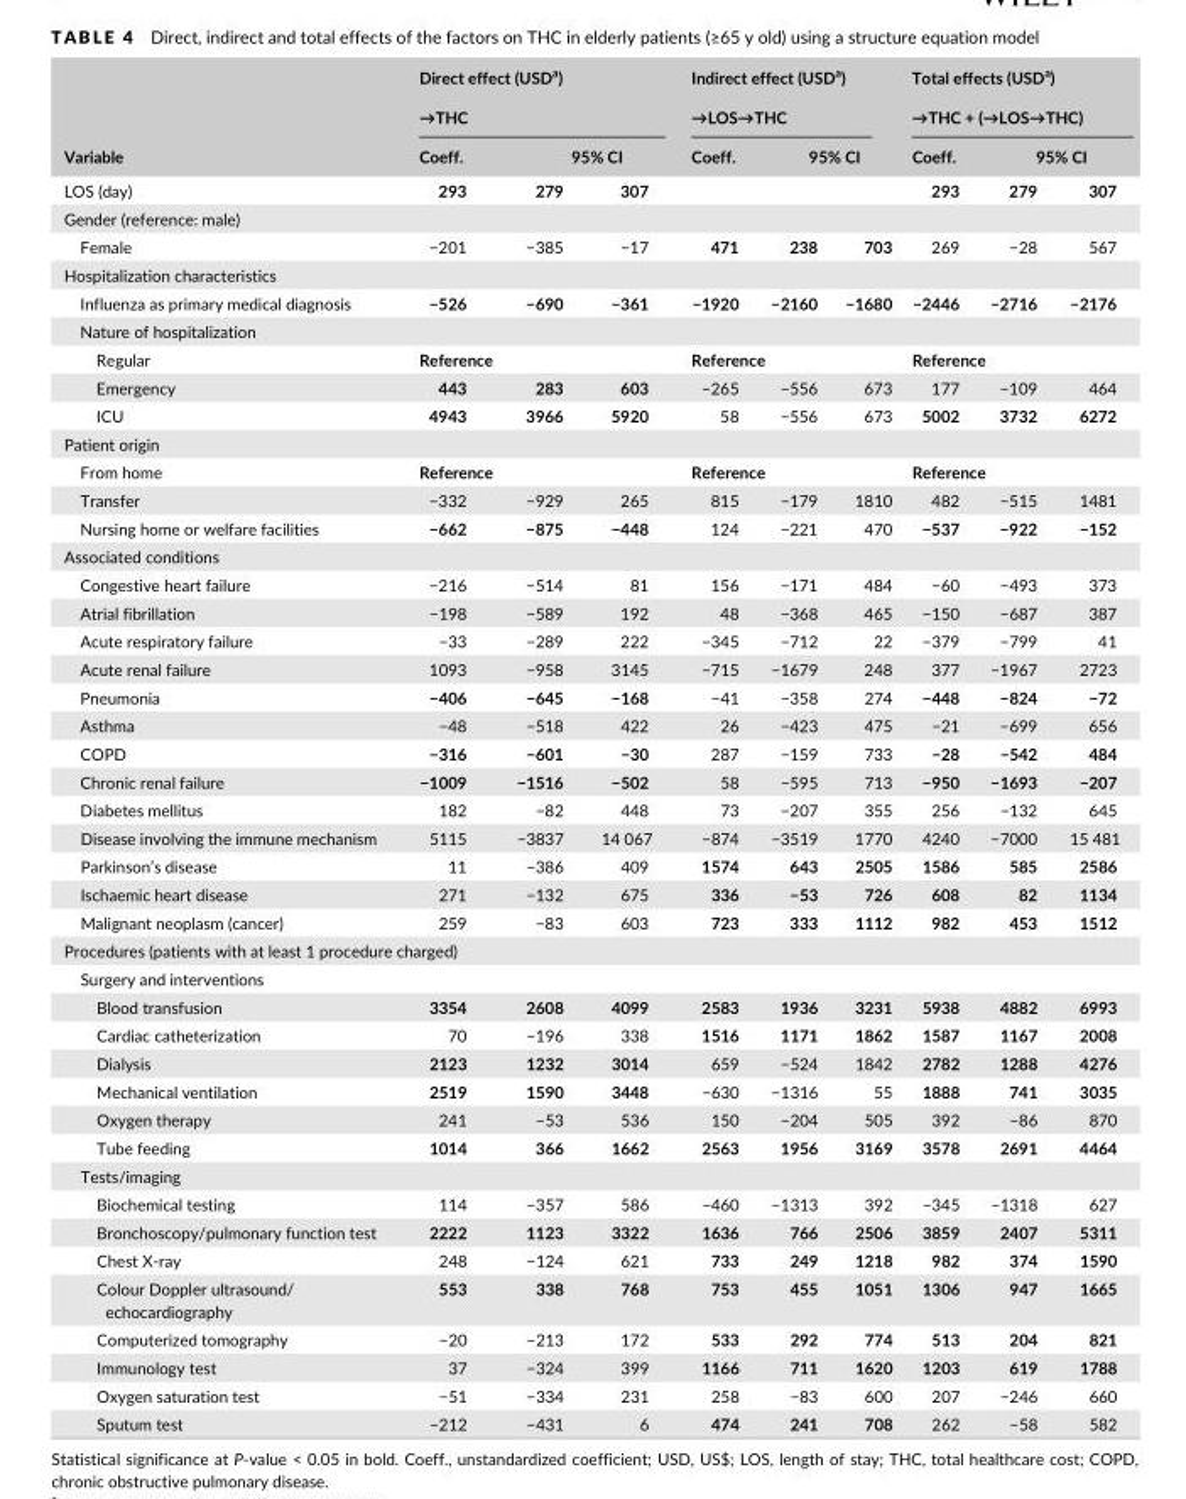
<table><thead><tr><td rowspan="4">Variable LOS (day)</td><td rowspan="2" colspan="3">Direct effect (USD<sup>a</sup>) →THC</td><td rowspan="2" colspan="3">Indirect effect (USD<sup>a</sup>) →LOS→THC</td><td rowspan="2" colspan="3">Total effects (USD<sup>a</sup>) →THC + (→LOS→THC)</td></tr><tr></tr><tr><td rowspan="2">Coeff. 293</td><td colspan="2">95% CI</td><td rowspan="2">Coeff.</td><td colspan="2">95% CI</td><td rowspan="2">Coeff. 293</td><td colspan="2">95% CI</td></tr><tr><td>279</td><td>307</td><td></td><td></td><td>279</td><td>307</td></tr></thead><tbody><tr><td colspan="10">Gender (reference: male)</td></tr><tr><td>Female</td><td>−201</td><td>−385</td><td>−17</td><td>471</td><td>238</td><td>703</td><td>269</td><td>−28</td><td>567</td></tr><tr><td colspan="10">Hospitalization characteristics</td></tr><tr><td>Influenza as primary medical diagnosis</td><td>−526</td><td>−690</td><td>−361</td><td>−1920</td><td>−2160</td><td>−1680</td><td>−2446</td><td>−2716</td><td>−2176</td></tr><tr><td colspan="10">Nature of hospitalization</td></tr><tr><td>Regular</td><td colspan="3">Reference</td><td colspan="3">Reference</td><td colspan="3">Reference</td></tr><tr><td>Emergency</td><td>443</td><td>283</td><td>603</td><td>−265</td><td>−556</td><td>673</td><td>177</td><td>−109</td><td>464</td></tr><tr><td>ICU</td><td>4943</td><td>3966</td><td>5920</td><td>58</td><td>−556</td><td>673</td><td>5002</td><td>3732</td><td>6272</td></tr><tr><td colspan="10">Patient origin</td></tr><tr><td>From home</td><td colspan="3">Reference</td><td colspan="3">Reference</td><td colspan="3">Reference</td></tr><tr><td>Transfer</td><td>−332</td><td>−929</td><td>265</td><td>815</td><td>−179</td><td>1810</td><td>482</td><td>−515</td><td>1481</td></tr><tr><td>Nursing home or welfare facilities</td><td>−662</td><td>−875</td><td>−448</td><td>124</td><td>−221</td><td>470</td><td>−537</td><td>−922</td><td>−152</td></tr><tr><td colspan="10">Associated conditions</td></tr><tr><td>Congestive heart failure</td><td>−216</td><td>−514</td><td>81</td><td>156</td><td>−171</td><td>484</td><td>−60</td><td>−493</td><td>373</td></tr><tr><td>Atrial fibrillation</td><td>−198</td><td>−589</td><td>192</td><td>48</td><td>−368</td><td>465</td><td>−150</td><td>−687</td><td>387</td></tr><tr><td>Acute respiratory failure</td><td>−33</td><td>−289</td><td>222</td><td>−345</td><td>−712</td><td>22</td><td>−379</td><td>−799</td><td>41</td></tr><tr><td>Acute renal failure</td><td>1093</td><td>−958</td><td>3145</td><td>−715</td><td>−1679</td><td>248</td><td>377</td><td>−1967</td><td>2723</td></tr><tr><td>Pneumonia</td><td>−406</td><td>−645</td><td>−168</td><td>−41</td><td>−358</td><td>274</td><td>−448</td><td>−824</td><td>−72</td></tr><tr><td>Asthma</td><td>−48</td><td>−518</td><td>422</td><td>26</td><td>−423</td><td>475</td><td>−21</td><td>−699</td><td>656</td></tr><tr><td>COPD</td><td>−316</td><td>−601</td><td>−30</td><td>287</td><td>−159</td><td>733</td><td>−28</td><td>−542</td><td>484</td></tr><tr><td>Chronic renal failure</td><td>−1009</td><td>−1516</td><td>−502</td><td>58</td><td>−595</td><td>713</td><td>−950</td><td>−1693</td><td>−207</td></tr><tr><td>Diabetes mellitus</td><td>182</td><td>−82</td><td>448</td><td>73</td><td>−207</td><td>355</td><td>256</td><td>−132</td><td>645</td></tr><tr><td>Disease involving the immune mechanism</td><td>5115</td><td>−3837</td><td>14 067</td><td>−874</td><td>−3519</td><td>1770</td><td>4240</td><td>−7000</td><td>15 481</td></tr><tr><td>Parkinson’s disease</td><td>11</td><td>−386</td><td>409</td><td>1574</td><td>643</td><td>2505</td><td>1586</td><td>585</td><td>2586</td></tr><tr><td>Ischaemic heart disease</td><td>271</td><td>−132</td><td>675</td><td>336</td><td>−53</td><td>726</td><td>608</td><td>82</td><td>1134</td></tr><tr><td>Malignant neoplasm (cancer)</td><td>259</td><td>−83</td><td>603</td><td>723</td><td>333</td><td>1112</td><td>982</td><td>453</td><td>1512</td></tr><tr><td colspan="10">Procedures (patients with at least 1 procedure charged)</td></tr><tr><td colspan="10">Surgery and interventions</td></tr><tr><td>Blood transfusion</td><td>3354</td><td>2608</td><td>4099</td><td>2583</td><td>1936</td><td>3231</td><td>5938</td><td>4882</td><td>6993</td></tr><tr><td>Cardiac catheterization</td><td>70</td><td>−196</td><td>338</td><td>1516</td><td>1171</td><td>1862</td><td>1587</td><td>1167</td><td>2008</td></tr><tr><td>Dialysis</td><td>2123</td><td>1232</td><td>3014</td><td>659</td><td>−524</td><td>1842</td><td>2782</td><td>1288</td><td>4276</td></tr><tr><td>Mechanical ventilation</td><td>2519</td><td>1590</td><td>3448</td><td>−630</td><td>−1316</td><td>55</td><td>1888</td><td>741</td><td>3035</td></tr><tr><td>Oxygen therapy</td><td>241</td><td>−53</td><td>536</td><td>150</td><td>−204</td><td>505</td><td>392</td><td>−86</td><td>870</td></tr><tr><td>Tube feeding</td><td>1014</td><td>366</td><td>1662</td><td>2563</td><td>1956</td><td>3169</td><td>3578</td><td>2691</td><td>4464</td></tr><tr><td colspan="10">Tests/imaging</td></tr><tr><td>Biochemical testing</td><td>114</td><td>−357</td><td>586</td><td>−460</td><td>−1313</td><td>392</td><td>−345</td><td>−1318</td><td>627</td></tr><tr><td>Bronchoscopy/pulmonary function test</td><td>2222</td><td>1123</td><td>3322</td><td>1636</td><td>766</td><td>2506</td><td>3859</td><td>2407</td><td>5311</td></tr><tr><td>Chest X- ray</td><td>248</td><td>−124</td><td>621</td><td>733</td><td>249</td><td>1218</td><td>982</td><td>374</td><td>1590</td></tr><tr><td>Colour Doppler ultrasound/ echocardiography</td><td>553</td><td>338</td><td>768</td><td>753</td><td>455</td><td>1051</td><td>1306</td><td>947</td><td>1665</td></tr><tr><td>Computerized tomography</td><td>−20</td><td>−213</td><td>172</td><td>533</td><td>292</td><td>774</td><td>513</td><td>204</td><td>821</td></tr><tr><td>Immunology test</td><td>37</td><td>−324</td><td>399</td><td>1166</td><td>711</td><td>1620</td><td>1203</td><td>619</td><td>1788</td></tr><tr><td>Oxygen saturation test</td><td>−51</td><td>−334</td><td>231</td><td>258</td><td>−83</td><td>600</td><td>207</td><td>−246</td><td>660</td></tr><tr><td>Sputum test</td><td>−212</td><td>−431</td><td>6</td><td>474</td><td>241</td><td>708</td><td>262</td><td>−58</td><td>582</td></tr></tbody></table>